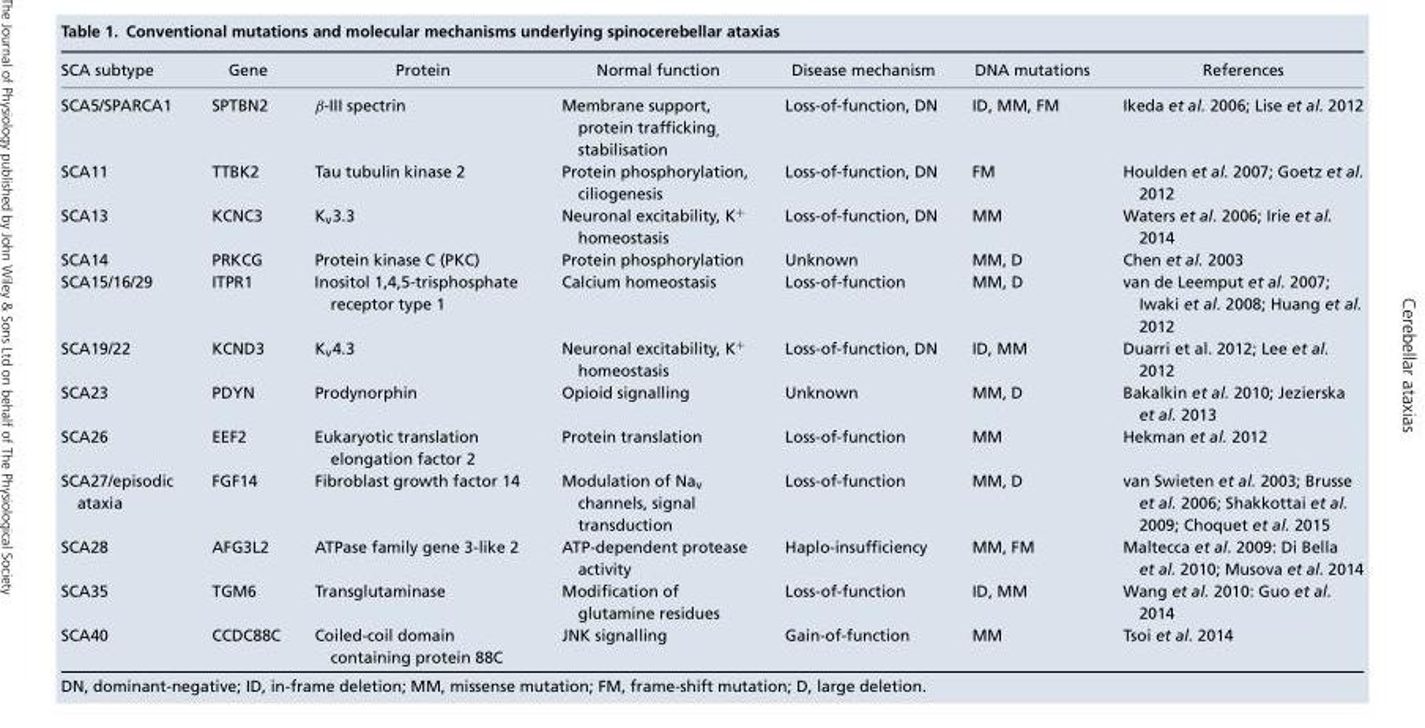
<table><thead><tr><td>SCA subtype</td><td>Gene</td><td>Protein</td><td>Normal function</td><td>Disease mechanism</td><td>DNA mutations</td><td>References</td></tr></thead><tbody><tr><td>SCA5/SPARCA1</td><td>SPTBN2</td><td>β-III spectrin</td><td>Membrane support, protein trafficking<sub>,</sub> stabilisation</td><td>Loss-of-function, DN</td><td>ID, MM, FM</td><td>Ikeda et al. 2006; Lise et al. 2012</td></tr><tr><td>SCA11</td><td>TTBK2</td><td>Tau tubulin kinase 2</td><td>Protein phosphorylation, ciliogenesis</td><td>Loss-of-function, DN</td><td>FM</td><td>Houlden et al. 2007; Goetz et al. 2012</td></tr><tr><td>SCA13</td><td>KCNC3</td><td>K<sub>v</sub>3.3</td><td>Neuronal excitability, K<sup>+</sup> homeostasis</td><td>Loss-of-function, DN</td><td>MM</td><td>Waters et al. 2006; Irie et al. 2014</td></tr><tr><td>SCA14</td><td>PRKCG</td><td>Protein kinase C (PKC)</td><td>Protein phosphorylation</td><td>Unknown</td><td>MM, D</td><td>Chen et al. 2003</td></tr><tr><td>SCA15/16/29</td><td>ITPR1</td><td>Inositol 1,4,5-trisphosphate receptor type 1</td><td>Calcium homeostasis</td><td>Loss-of-function</td><td>MM, D</td><td>van de Leemput et al. 2007; Iwaki et al. 2008; Huang et al. 2012</td></tr><tr><td>SCA19/22</td><td>KCND3</td><td>K<sub>v</sub>4.3</td><td>Neuronal excitability, K<sup>+</sup> homeostasis</td><td>Loss-of-function, DN</td><td>ID, MM</td><td>Duarri et al. 2012; Lee et al. 2012</td></tr><tr><td>SCA23</td><td>PDYN</td><td>Prodynorphin</td><td>Opioid signalling</td><td>Unknown</td><td>MM, D</td><td>Bakalkin et al. 2010; Jezierska et al. 2013</td></tr><tr><td>SCA26</td><td>EEF2</td><td>Eukaryotic translation elongation factor 2</td><td>Protein translation</td><td>Loss-of-function</td><td>MM</td><td>Hekman et al. 2012</td></tr><tr><td>SCA27/episodic ataxia</td><td>FGF14</td><td>Fibroblast growth factor 14</td><td>Modulation of Na<sub>v</sub> channels, signal transduction</td><td>Loss-of-function</td><td>MM, D</td><td>van Swieten et al. 2003; Brusse et al. 2006; Shakkottai et al. 2009; Choquet et al. 2015</td></tr><tr><td>SCA28</td><td>AFG3L2</td><td>ATPase family gene 3-like 2</td><td>ATP-dependent protease activity</td><td>Haplo-insufficiency</td><td>MM, FM</td><td>Maltecca et al. 2009: Di Bella et al. 2010; Musova et al. 2014</td></tr><tr><td>SCA35</td><td>TGM6</td><td>Transglutaminase</td><td>Modification of glutamine residues</td><td>Loss-of-function</td><td>ID, MM</td><td>Wang et al. 2010: Guo et al. 2014</td></tr><tr><td>SCA40</td><td>CCDC88C</td><td>Coiled-coil domain containing protein 88C</td><td>JNK signalling</td><td>Gain-of-function</td><td>MM</td><td>Tsoi et al. 2014</td></tr></tbody></table>